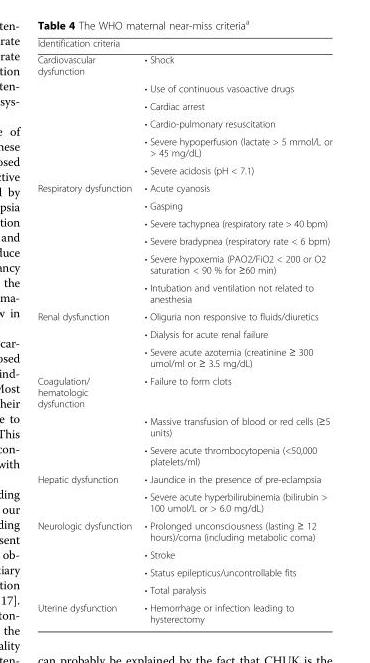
<table><thead><tr><td colspan="2">Identification criteria</td></tr><tr><td>Cardiovascular dysfunction</td><td>• Shock</td></tr></thead><tbody><tr><td></td><td>• Use of continuous vasoactive drugs</td></tr><tr><td></td><td>• Cardiac arrest</td></tr><tr><td></td><td>• Cardio-pulmonary resuscitation</td></tr><tr><td></td><td>• Severe hypoperfusion (lactate &gt; 5 mmol/L or &gt; 45 mg/dL)</td></tr><tr><td></td><td>• Severe acidosis (pH &lt; 7.1)</td></tr><tr><td rowspan="6">Respiratory dysfunction</td><td>• Acute cyanosis</td></tr><tr><td>• Gasping</td></tr><tr><td>• Severe tachypnea (respiratory rate &gt; 40 bpm)</td></tr><tr><td>• Severe bradypnea (respiratory rate &lt; 6 bpm)</td></tr><tr><td>• Severe hypoxemia (PAO2/FiO2 &lt; 200 or O2 saturation &lt; 90 % for ≥60 min)</td></tr><tr><td>• Intubation and ventilation not related to anesthesia</td></tr><tr><td rowspan="3">Renal dysfunction</td><td>• Oliguria non responsive to fluids/diuretics</td></tr><tr><td>• Dialysis for acute renal failure</td></tr><tr><td>• Severe acute azotemia (creatinine ≥ 300 umol/ml or ≥ 3.5 mg/dL)</td></tr><tr><td rowspan="3">Coagulation/ hematologic dysfunction</td><td>• Failure to form clots</td></tr><tr><td>• Massive transfusion of blood or red cells (≥5 units)</td></tr><tr><td>• Severe acute thrombocytopenia (&lt;50,000 platelets/ml)</td></tr><tr><td rowspan="2">Hepatic dysfunction</td><td>• Jaundice in the presence of pre-eclampsia</td></tr><tr><td>• Severe acute hyperbilirubinemia (bilirubin &gt; 100 umol/L or &gt; 6.0 mg/dL)</td></tr><tr><td rowspan="4">Neurologic dysfunction</td><td>• Prolonged unconsciousness (lasting ≥ 12 hours)/coma (including metabolic coma)</td></tr><tr><td>• Stroke</td></tr><tr><td>• Status epilepticus/uncontrollable fits</td></tr><tr><td>• Total paralysis</td></tr><tr><td>Uterine dysfunction</td><td>• Hemorrhage or infection leading to hysterectomy</td></tr></tbody></table>